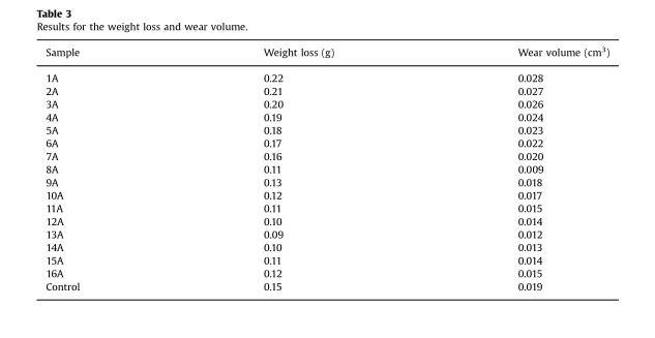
<table><thead><tr><td>Sample</td><td>Weight loss (g)</td><td>Wear volume (cm<sup>3</sup>)</td></tr></thead><tbody><tr><td>1A</td><td>0.22</td><td>0.028</td></tr><tr><td>2A</td><td>0.21</td><td>0.027</td></tr><tr><td>3A</td><td>0.20</td><td>0.026</td></tr><tr><td>4A</td><td>0.19</td><td>0.024</td></tr><tr><td>5A</td><td>0.18</td><td>0.023</td></tr><tr><td>6A</td><td>0.17</td><td>0.022</td></tr><tr><td>7A</td><td>0.16</td><td>0.020</td></tr><tr><td>8A</td><td>0.11</td><td>0.009</td></tr><tr><td>9A</td><td>0.13</td><td>0.018</td></tr><tr><td>10A</td><td>0.12</td><td>0.017</td></tr><tr><td>11A</td><td>0.11</td><td>0.015</td></tr><tr><td>12A</td><td>0.10</td><td>0.014</td></tr><tr><td>13A</td><td>0.09</td><td>0.012</td></tr><tr><td>14A</td><td>0.10</td><td>0.013</td></tr><tr><td>15A</td><td>0.11</td><td>0.014</td></tr><tr><td>16A</td><td>0.12</td><td>0.015</td></tr><tr><td>Control</td><td>0.15</td><td>0.019</td></tr></tbody></table>